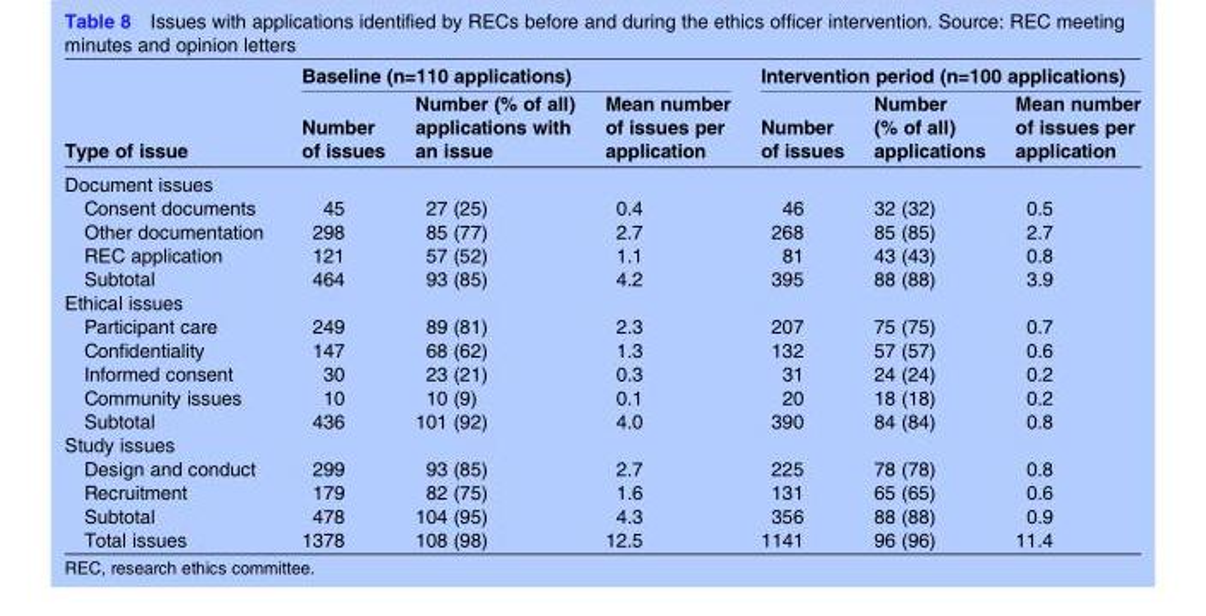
<table><thead><tr><td rowspan="2">Type of issue</td><td colspan="3">Baseline (n=110 applications)</td><td colspan="3">Intervention period (n=100 applications)</td></tr><tr><td>Number of issues</td><td>Number (% of all) applications with an issue</td><td>Mean number of issues per application</td><td>Number of issues</td><td>Number (% of all) applications</td><td>Mean number of issues per application</td></tr></thead><tbody><tr><td colspan="7">Document issues</td></tr><tr><td>Consent documents</td><td>45</td><td>27 (25)</td><td>0.4</td><td>46</td><td>32 (32)</td><td>0.5</td></tr><tr><td>Other documentation</td><td>298</td><td>85 (77)</td><td>2.7</td><td>268</td><td>85 (85)</td><td>2.7</td></tr><tr><td>REC application</td><td>121</td><td>57 (52)</td><td>1.1</td><td>81</td><td>43 (43)</td><td>0.8</td></tr><tr><td>Subtotal</td><td>464</td><td>93 (85)</td><td>4.2</td><td>395</td><td>88 (88)</td><td>3.9</td></tr><tr><td colspan="7">Ethical issues</td></tr><tr><td>Participant care</td><td>249</td><td>89 (81)</td><td>2.3</td><td>207</td><td>75 (75)</td><td>0.7</td></tr><tr><td>Confidentiality</td><td>147</td><td>68 (62)</td><td>1.3</td><td>132</td><td>57 (57)</td><td>0.6</td></tr><tr><td>Informed consent</td><td>30</td><td>23 (21)</td><td>0.3</td><td>31</td><td>24 (24)</td><td>0.2</td></tr><tr><td>Community issues</td><td>10</td><td>10 (9)</td><td>0.1</td><td>20</td><td>18 (18)</td><td>0.2</td></tr><tr><td>Subtotal</td><td>436</td><td>101 (92)</td><td>4.0</td><td>390</td><td>84 (84)</td><td>0.8</td></tr><tr><td colspan="7">Study issues</td></tr><tr><td>Design and conduct</td><td>299</td><td>93 (85)</td><td>2.7</td><td>225</td><td>78 (78)</td><td>0.8</td></tr><tr><td>Recruitment</td><td>179</td><td>82 (75)</td><td>1.6</td><td>131</td><td>65 (65)</td><td>0.6</td></tr><tr><td>Subtotal</td><td>478</td><td>104 (95)</td><td>4.3</td><td>356</td><td>88 (88)</td><td>0.9</td></tr><tr><td>Total issues</td><td>1378</td><td>108 (98)</td><td>12.5</td><td>1141</td><td>96 (96)</td><td>11.4</td></tr></tbody></table>